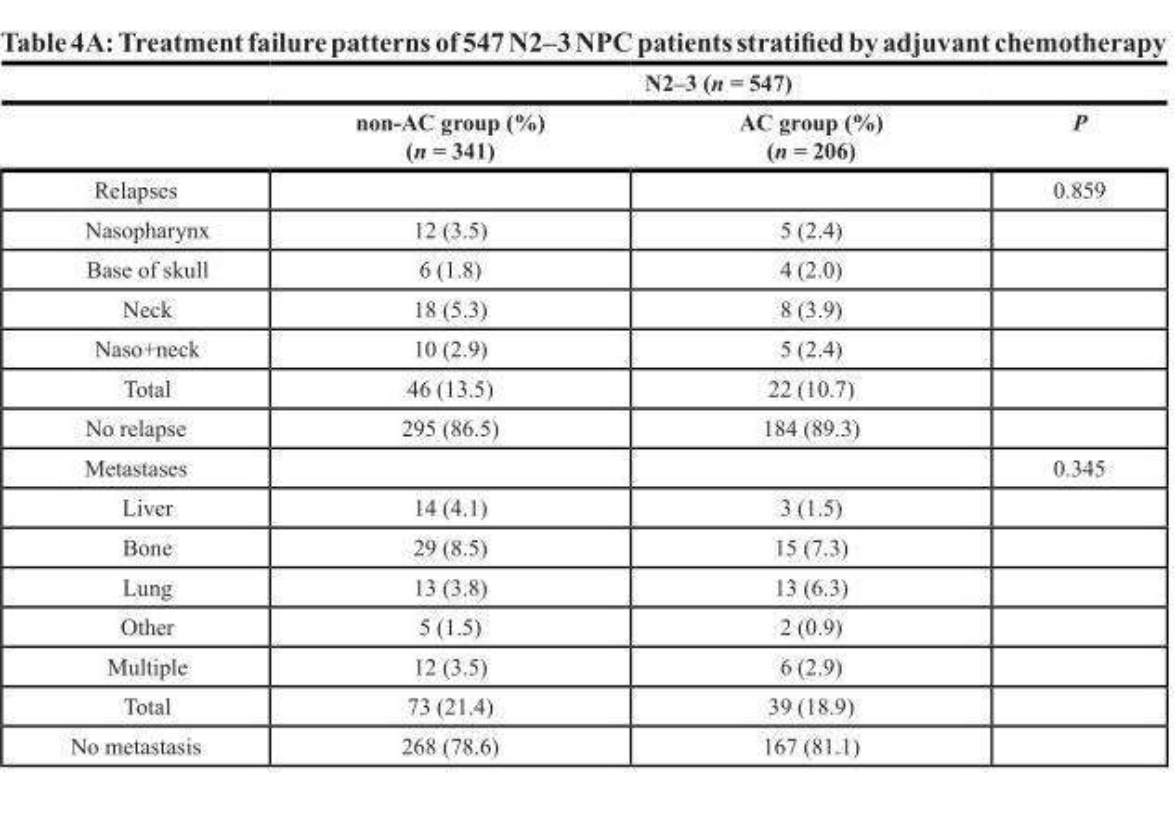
<table><thead><tr><td rowspan="2"></td><td colspan="3">N2–3 (n = 547)</td></tr><tr><td>non-AC group (%) (n = 341)</td><td>AC group (%) (n = 206)</td><td>P</td></tr></thead><tbody><tr><td>Relapses</td><td></td><td></td><td>0.859</td></tr><tr><td>Nasopharynx</td><td>12 (3.5)</td><td>5 (2.4)</td><td></td></tr><tr><td>Base of skull</td><td>6 (1.8)</td><td>4 (2.0)</td><td></td></tr><tr><td>Neck</td><td>18 (5.3)</td><td>8 (3.9)</td><td></td></tr><tr><td>Naso+neck</td><td>10 (2.9)</td><td>5 (2.4)</td><td></td></tr><tr><td>Total</td><td>46 (13.5)</td><td>22 (10.7)</td><td></td></tr><tr><td>No relapse</td><td>295 (86.5)</td><td>184 (89.3)</td><td></td></tr><tr><td>Metastases</td><td></td><td></td><td>0.345</td></tr><tr><td>Liver</td><td>14 (4.1)</td><td>3 (1.5)</td><td></td></tr><tr><td>Bone</td><td>29 (8.5)</td><td>15 (7.3)</td><td></td></tr><tr><td>Lung</td><td>13 (3.8)</td><td>13 (6.3)</td><td></td></tr><tr><td>Other</td><td>5 (1.5)</td><td>2 (0.9)</td><td></td></tr><tr><td>Multiple</td><td>12 (3.5)</td><td>6 (2.9)</td><td></td></tr><tr><td>Total</td><td>73 (21.4)</td><td>39 (18.9)</td><td></td></tr><tr><td>No metastasis</td><td>268 (78.6)</td><td>167 (81.1)</td><td></td></tr></tbody></table>